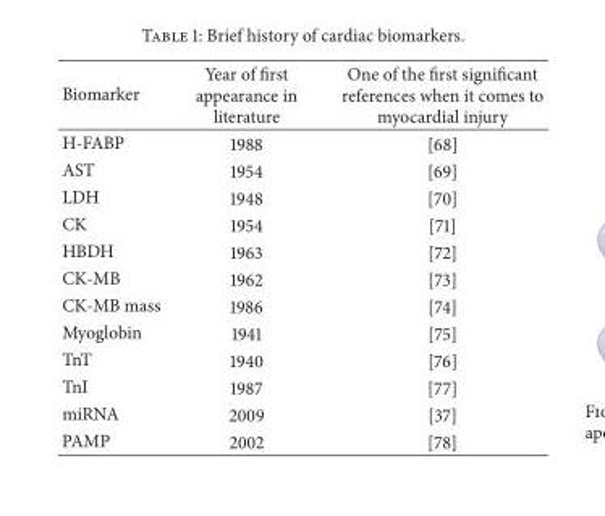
<table><thead><tr><td>Biomarker</td><td>Year of first appearance in literature</td><td>One of the first significant references when it comes to myocardial injury</td></tr></thead><tbody><tr><td>H-FABP</td><td>1988</td><td>[68]</td></tr><tr><td>AST</td><td>1954</td><td>[69]</td></tr><tr><td>LDH</td><td>1948</td><td>[70]</td></tr><tr><td>CK</td><td>1954</td><td>[71]</td></tr><tr><td>HBDH</td><td>1963</td><td>[72]</td></tr><tr><td>CK-MB</td><td>1962</td><td>[73]</td></tr><tr><td>CK-MB mass</td><td>1986</td><td>[74]</td></tr><tr><td>Myoglobin</td><td>1941</td><td>[75]</td></tr><tr><td>TnT</td><td>1940</td><td>[76]</td></tr><tr><td>TnI</td><td>1987</td><td>[77]</td></tr><tr><td>miRNA</td><td>2009</td><td>[37]</td></tr><tr><td>PAMP</td><td>2002</td><td>[78]</td></tr></tbody></table>